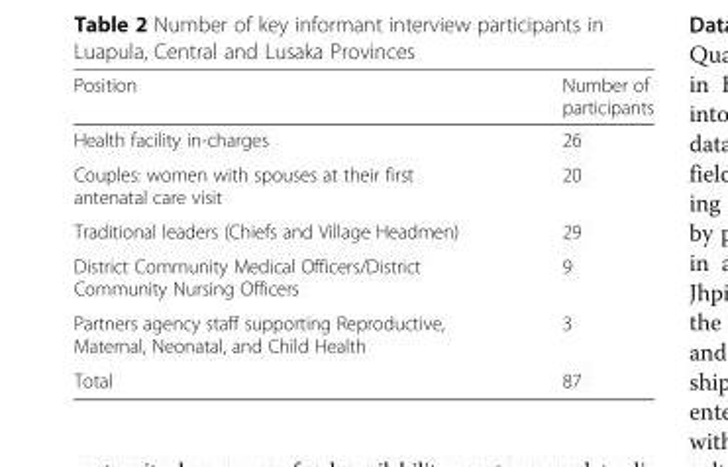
<table><thead><tr><td>Position</td><td>Number of participants</td></tr></thead><tbody><tr><td>Health facility in-charges</td><td>26</td></tr><tr><td>Couples: women with spouses at their first antenatal care visit</td><td>20</td></tr><tr><td>Traditional leaders (Chiefs and Village Headmen)</td><td>29</td></tr><tr><td>District Community Medical Officers/District Community Nursing Officers</td><td>9</td></tr><tr><td>Partners agency staff supporting Reproductive, Maternal, Neonatal, and Child Health</td><td>3</td></tr><tr><td>Total</td><td>87</td></tr></tbody></table>